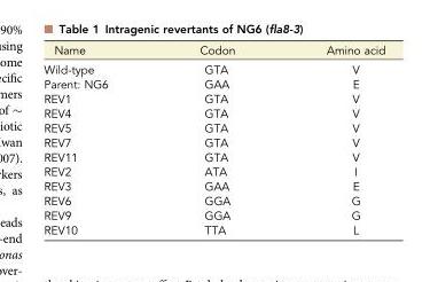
<table><thead><tr><td>Name</td><td>Codon</td><td>Amino acid</td></tr></thead><tbody><tr><td>Wild-type</td><td>GTA</td><td>V</td></tr><tr><td>Parent: NG6</td><td>GAA</td><td>E</td></tr><tr><td>REV1</td><td>GTA</td><td>V</td></tr><tr><td>REV4</td><td>GTA</td><td>V</td></tr><tr><td>REV5</td><td>GTA</td><td>V</td></tr><tr><td>REV7</td><td>GTA</td><td>V</td></tr><tr><td>REV11</td><td>GTA</td><td>V</td></tr><tr><td>REV2</td><td>ATA</td><td>I</td></tr><tr><td>REV3</td><td>GAA</td><td>E</td></tr><tr><td>REV6</td><td>GGA</td><td>G</td></tr><tr><td>REV9</td><td>GGA</td><td>G</td></tr><tr><td>REV10</td><td>TTA</td><td>L</td></tr></tbody></table>